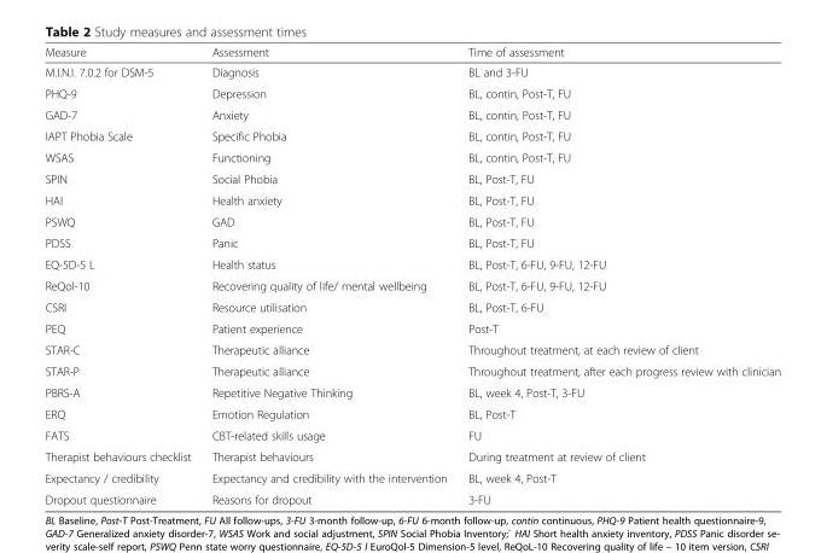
<table><thead><tr><td>Measure</td><td>Assessment</td><td>Time of assessment</td></tr></thead><tbody><tr><td>M.I.N.I. 7.0.2 for DSM-5</td><td>Diagnosis</td><td>BL and 3-FU</td></tr><tr><td>PHQ-9</td><td>Depression</td><td>BL, contin, Post-T, FU</td></tr><tr><td>GAD-7</td><td>Anxiety</td><td>BL, contin, Post-T, FU</td></tr><tr><td>IAPT Phobia Scale</td><td>Specific Phobia</td><td>BL, contin, Post-T, FU</td></tr><tr><td>WSAS</td><td>Functioning</td><td>BL, contin, Post-T, FU</td></tr><tr><td>SPIN</td><td>Social Phobia</td><td>BL, Post-T, FU</td></tr><tr><td>HAI</td><td>Health anxiety</td><td>BL, Post-T, FU</td></tr><tr><td>PSWQ</td><td>GAD</td><td>BL, Post-T, FU</td></tr><tr><td>PDSS</td><td>Panic</td><td>BL, Post-T, FU</td></tr><tr><td>EQ-5D-5 L</td><td>Health status</td><td>BL, Post-T, 6-FU, 9-FU, 12-FU</td></tr><tr><td>ReQol-10</td><td>Recovering quality of life/ mental wellbeing</td><td>BL, Post-T, 6-FU, 9-FU, 12-FU</td></tr><tr><td>CSRI</td><td>Resource utilisation</td><td>BL, Post-T, 6-FU</td></tr><tr><td>PEQ</td><td>Patient experience</td><td>Post-T</td></tr><tr><td>STAR-C</td><td>Therapeutic alliance</td><td>Throughout treatment, at each review of client</td></tr><tr><td>STAR-P</td><td>Therapeutic alliance</td><td>Throughout treatment, after each progress review with clinician</td></tr><tr><td>PBRS-A</td><td>Repetitive Negative Thinking</td><td>BL, week 4, Post-T, 3-FU</td></tr><tr><td>ERQ</td><td>Emotion Regulation</td><td>BL, Post-T</td></tr><tr><td>FATS</td><td>CBT-related skills usage</td><td>FU</td></tr><tr><td>Therapist behaviours checklist</td><td>Therapist behaviours</td><td>During treatment at review of client</td></tr><tr><td>Expectancy / credibility</td><td>Expectancy and credibility with the intervention</td><td>BL, week 4, Post-T</td></tr><tr><td>Dropout questionnaire</td><td>Reasons for dropout</td><td>3-FU</td></tr></tbody></table>